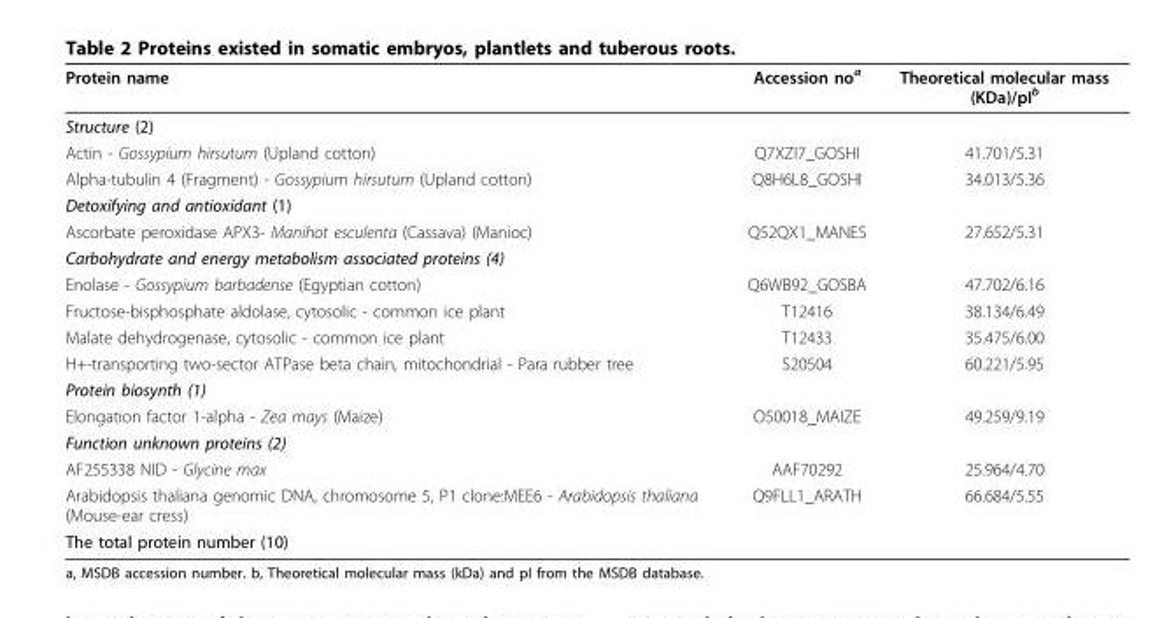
<table><thead><tr><td>Protein name</td><td>Accession no<sup>a</sup></td><td>Theoretical molecular mass (KDa)/pI<sup>b</sup></td></tr></thead><tbody><tr><td colspan="3">Structure (2)</td></tr><tr><td>Actin - Gossypium hirsutum (Upland cotton)</td><td>Q7XZI7_GOSHI</td><td>41.701/5.31</td></tr><tr><td>Alpha-tubulin 4 (Fragment) - Gossypium hirsutum (Upland cotton)</td><td>Q8H6L8_GOSHI</td><td>34.013/5.36</td></tr><tr><td colspan="3">Detoxifying and antioxidant (1)</td></tr><tr><td>Ascorbate peroxidase APX3- Manihot esculenta (Cassava) (Manioc)</td><td>Q52QX1_MANES</td><td>27.652/5.31</td></tr><tr><td colspan="3">Carbohydrate and energy metabolism associated proteins (4)</td></tr><tr><td>Enolase - Gossypium barbadense (Egyptian cotton)</td><td>Q6WB92_GOSBA</td><td>47.702/6.16</td></tr><tr><td>Fructose-bisphosphate aldolase, cytosolic - common ice plant</td><td>T12416</td><td>38.134/6.49</td></tr><tr><td>Malate dehydrogenase, cytosolic - common ice plant</td><td>T12433</td><td>35.475/6.00</td></tr><tr><td>H+-transporting two-sector ATPase beta chain, mitochondrial - Para rubber tree</td><td>S20504</td><td>60.221/5.95</td></tr><tr><td colspan="3">Protein biosynth (1)</td></tr><tr><td>Elongation factor 1-alpha - Zea mays (Maize)</td><td>O50018_MAIZE</td><td>49.259/9.19</td></tr><tr><td colspan="3">Function unknown proteins (2)</td></tr><tr><td>AF255338 NID - Glycine max</td><td>AAF70292</td><td>25.964/4.70</td></tr><tr><td>Arabidopsis thaliana genomic DNA, chromosome 5, P1 clone:MEE6 - Arabidopsis thaliana (Mouse-ear cress)</td><td>Q9FLL1_ARATH</td><td>66.684/5.55</td></tr><tr><td>The total protein number (10)</td><td></td><td></td></tr></tbody></table>